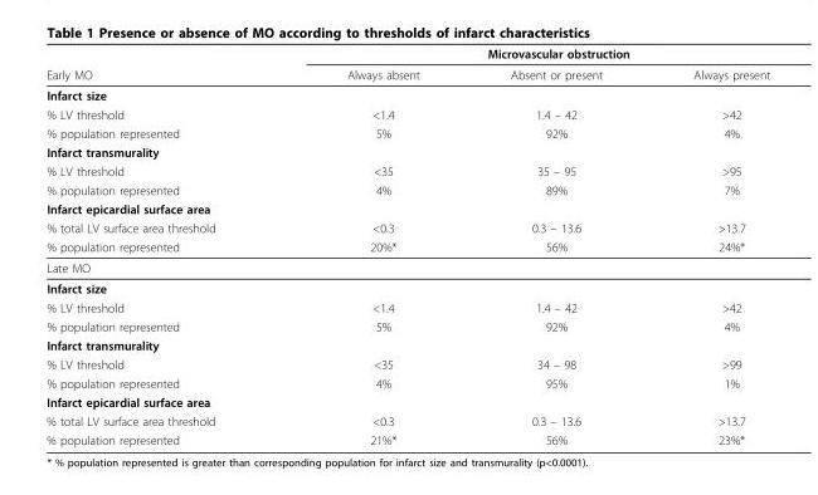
<table><thead><tr><td rowspan="2">Early MO</td><td colspan="3">Microvascular obstruction</td></tr><tr><td>Always absent</td><td>Absent or present</td><td>Always present</td></tr></thead><tbody><tr><td colspan="4">Infarct size</td></tr><tr><td>% LV threshold</td><td>&lt;1.4</td><td>1.4 – 42</td><td>&gt;42</td></tr><tr><td>% population represented</td><td>5%</td><td>92%</td><td>4%</td></tr><tr><td colspan="4">Infarct transmurality</td></tr><tr><td>% LV threshold</td><td>&lt;35</td><td>35 – 95</td><td>&gt;95</td></tr><tr><td>% population represented</td><td>4%</td><td>89%</td><td>7%</td></tr><tr><td colspan="4">Infarct epicardial surface area</td></tr><tr><td>% total LV surface area threshold</td><td>&lt;0.3</td><td>0.3 – 13.6</td><td>&gt;13.7</td></tr><tr><td>% population represented</td><td>20%*</td><td>56%</td><td>24%*</td></tr><tr><td colspan="4">Late MO</td></tr><tr><td colspan="4">Infarct size</td></tr><tr><td>% LV threshold</td><td>&lt;1.4</td><td>1.4 – 42</td><td>&gt;42</td></tr><tr><td>% population represented</td><td>5%</td><td>92%</td><td>4%</td></tr><tr><td colspan="4">Infarct transmurality</td></tr><tr><td>% LV threshold</td><td>&lt;35</td><td>34 – 98</td><td>&gt;99</td></tr><tr><td>% population represented</td><td>4%</td><td>95%</td><td>1%</td></tr><tr><td colspan="4">Infarct epicardial surface area</td></tr><tr><td>% total LV surface area threshold</td><td>&lt;0.3</td><td>0.3 – 13.6</td><td>&gt;13.7</td></tr><tr><td>% population represented</td><td>21%*</td><td>56%</td><td>23%*</td></tr></tbody></table>